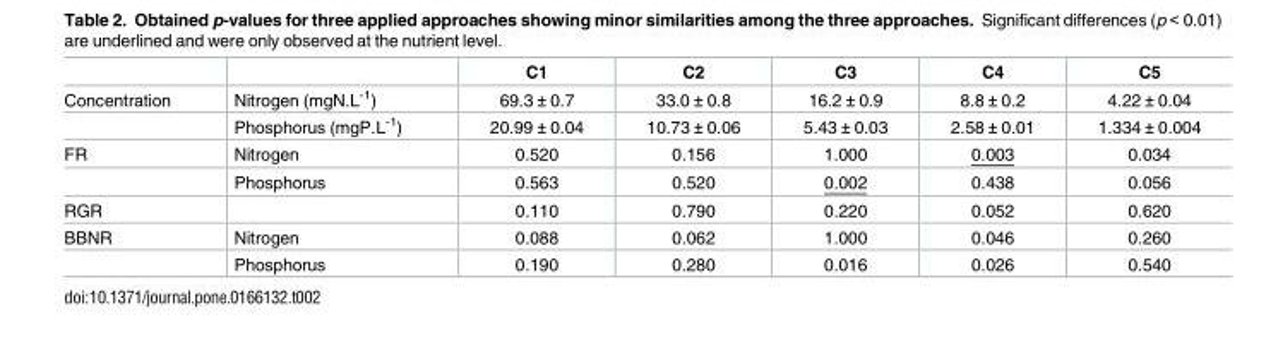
<table><thead><tr><td></td><td></td><td>C1</td><td>C2</td><td>C3</td><td>C4</td><td>C5</td></tr></thead><tbody><tr><td rowspan="2">Concentration</td><td>Nitrogen (mgN.L<sup>-1</sup>)</td><td>69.3 ± 0.7</td><td>33.0 ± 0.8</td><td>16.2 ± 0.9</td><td>8.8 ± 0.2</td><td>4.22 ± 0.04</td></tr><tr><td>Phosphorus (mgP.L<sup>-1</sup>)</td><td>20.99 ± 0.04</td><td>10.73 ± 0.06</td><td>5.43 ± 0.03</td><td>2.58 ± 0.01</td><td>1.334 ± 0.004</td></tr><tr><td rowspan="2">FR</td><td>Nitrogen</td><td>0.520</td><td>0.156</td><td>1.000</td><td>0.003</td><td>0.034</td></tr><tr><td>Phosphorus</td><td>0.563</td><td>0.520</td><td>0.002</td><td>0.438</td><td>0.056</td></tr><tr><td>RGR</td><td></td><td>0.110</td><td>0.790</td><td>0.220</td><td>0.052</td><td>0.620</td></tr><tr><td rowspan="2">BBNR</td><td>Nitrogen</td><td>0.088</td><td>0.062</td><td>1.000</td><td>0.046</td><td>0.260</td></tr><tr><td>Phosphorus</td><td>0.190</td><td>0.280</td><td>0.016</td><td>0.026</td><td>0.540</td></tr></tbody></table>